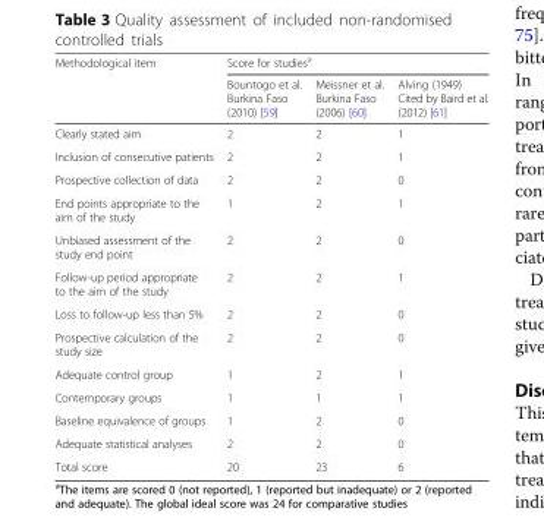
<table><thead><tr><td rowspan="2">Methodological item</td><td colspan="3">Score for studies<sup>a</sup></td></tr><tr><td>Bountogo et al. Burkina Faso (2010) [59]</td><td>Meissner et al. Burkina Faso (2006) [60]</td><td>Alving (1949) Cited by Baird et al. (2012) [61]</td></tr></thead><tbody><tr><td>Clearly stated aim</td><td>2</td><td>2</td><td>1</td></tr><tr><td>Inclusion of consecutive patients</td><td>2</td><td>2</td><td>1</td></tr><tr><td>Prospective collection of data</td><td>2</td><td>2</td><td>0</td></tr><tr><td>End points appropriate to the aim of the study</td><td>1</td><td>2</td><td>1</td></tr><tr><td>Unbiased assessment of the study end point</td><td>2</td><td>2</td><td>0</td></tr><tr><td>Follow-up period appropriate to the aim of the study</td><td>2</td><td>2</td><td>1</td></tr><tr><td>Loss to follow-up less than 5%</td><td>2</td><td>2</td><td>0</td></tr><tr><td>Prospective calculation of the study size</td><td>2</td><td>2</td><td>0</td></tr><tr><td>Adequate control group</td><td>1</td><td>2</td><td>1</td></tr><tr><td>Contemporary groups</td><td>1</td><td>1</td><td>1</td></tr><tr><td>Baseline equivalence of groups</td><td>1</td><td>2</td><td>0</td></tr><tr><td>Adequate statistical analyses</td><td>2</td><td>2</td><td>0</td></tr><tr><td>Total score</td><td>20</td><td>23</td><td>6</td></tr></tbody></table>